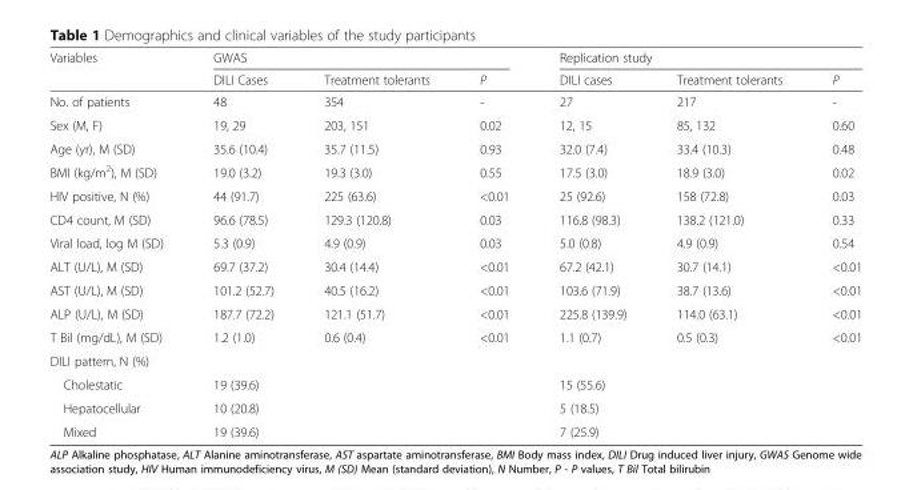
<table><thead><tr><td rowspan="2">Variables</td><td colspan="3">GWAS</td><td colspan="3">Replication study</td></tr><tr><td>DILI Cases</td><td>Treatment tolerants</td><td>P</td><td>DILI cases</td><td>Treatment tolerants</td><td>P</td></tr></thead><tbody><tr><td>No. of patients</td><td>48</td><td>354</td><td>-</td><td>27</td><td>217</td><td>-</td></tr><tr><td>Sex (M, F)</td><td>19, 29</td><td>203, 151</td><td>0.02</td><td>12, 15</td><td>85, 132</td><td>0.60</td></tr><tr><td>Age (yr), M (SD)</td><td>35.6 (10.4)</td><td>35.7 (11.5)</td><td>0.93</td><td>32.0 (7.4)</td><td>33.4 (10.3)</td><td>0.48</td></tr><tr><td>BMI (kg/m<sup>2</sup>), M (SD)</td><td>19.0 (3.2)</td><td>19.3 (3.0)</td><td>0.55</td><td>17.5 (3.0)</td><td>18.9 (3.0)</td><td>0.02</td></tr><tr><td>HIV positive, N (%)</td><td>44 (91.7)</td><td>225 (63.6)</td><td>&lt;0.01</td><td>25 (92.6)</td><td>158 (72.8)</td><td>0.03</td></tr><tr><td>CD4 count, M (SD)</td><td>96.6 (78.5)</td><td>129.3 (120.8)</td><td>0.03</td><td>116.8 (98.3)</td><td>138.2 (121.0)</td><td>0.33</td></tr><tr><td>Viral load, log M (SD)</td><td>5.3 (0.9)</td><td>4.9 (0.9)</td><td>0.03</td><td>5.0 (0.8)</td><td>4.9 (0.9)</td><td>0.54</td></tr><tr><td>ALT (U/L), M (SD)</td><td>69.7 (37.2)</td><td>30.4 (14.4)</td><td>&lt;0.01</td><td>67.2 (42.1)</td><td>30.7 (14.1)</td><td>&lt;0.01</td></tr><tr><td>AST (U/L), M (SD)</td><td>101.2 (52.7)</td><td>40.5 (16.2)</td><td>&lt;0.01</td><td>103.6 (71.9)</td><td>38.7 (13.6)</td><td>&lt;0.01</td></tr><tr><td>ALP (U/L), M (SD)</td><td>187.7 (72.2)</td><td>121.1 (51.7)</td><td>&lt;0.01</td><td>225.8 (139.9)</td><td>114.0 (63.1)</td><td>&lt;0.01</td></tr><tr><td>T Bil (mg/dL), M (SD)</td><td>1.2 (1.0)</td><td>0.6 (0.4)</td><td>&lt;0.01</td><td>1.1 (0.7)</td><td>0.5 (0.3)</td><td>&lt;0.01</td></tr><tr><td colspan="7">DILI pattern, N (%)</td></tr><tr><td>Cholestatic</td><td>19 (39.6)</td><td></td><td></td><td>15 (55.6)</td><td></td><td></td></tr><tr><td>Hepatocellular</td><td>10 (20.8)</td><td></td><td></td><td>5 (18.5)</td><td></td><td></td></tr><tr><td>Mixed</td><td>19 (39.6)</td><td></td><td></td><td>7 (25.9)</td><td></td><td></td></tr></tbody></table>